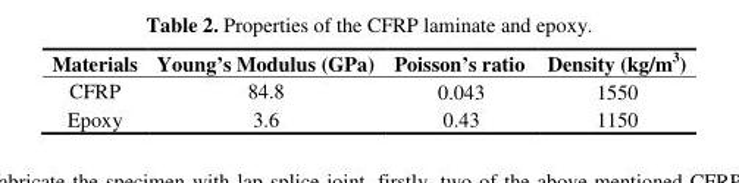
<table><thead><tr><td>Materials</td><td>Young’s Modulus (GPa)</td><td>Poisson’s ratio</td><td>Density (kg/m<sup>3</sup>)</td></tr></thead><tbody><tr><td>CFRP</td><td>84.8</td><td>0.043</td><td>1550</td></tr><tr><td>Epoxy</td><td>3.6</td><td>0.43</td><td>1150</td></tr></tbody></table>